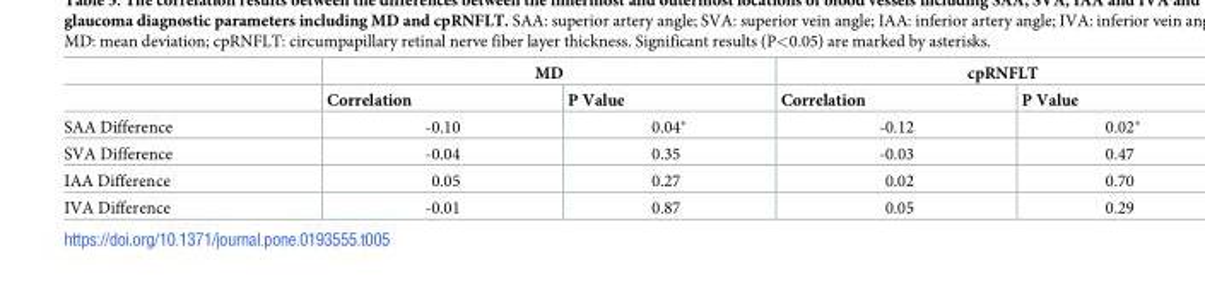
<table><thead><tr><td rowspan="2"></td><td colspan="2">MD</td><td colspan="2">cpRNFLT</td></tr><tr><td>Correlation</td><td>P Value</td><td>Correlation</td><td>P Value</td></tr></thead><tbody><tr><td>SAA Difference</td><td>-0.10</td><td>0.04*</td><td>-0.12</td><td>0.02*</td></tr><tr><td>SVA Difference</td><td>-0.04</td><td>0.35</td><td>-0.03</td><td>0.47</td></tr><tr><td>IAA Difference</td><td>0.05</td><td>0.27</td><td>0.02</td><td>0.70</td></tr><tr><td>IVA Difference</td><td>-0.01</td><td>0.87</td><td>0.05</td><td>0.29</td></tr></tbody></table>